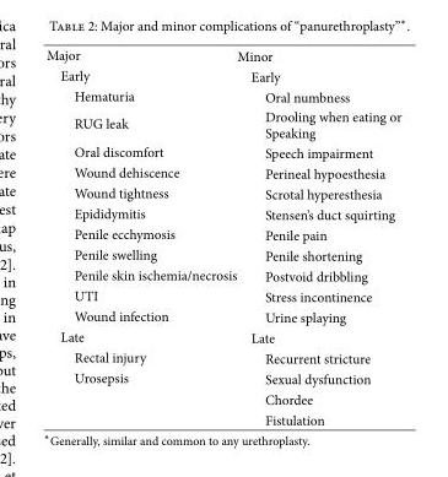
<table><tbody><tr><td>Major</td><td>Minor</td></tr><tr><td>Early</td><td>Early</td></tr><tr><td>Hematuria</td><td>Oral numbness</td></tr><tr><td>RUG leak</td><td>Drooling when eating or Speaking</td></tr><tr><td>Oral discomfort</td><td>Speech impairment</td></tr><tr><td>Wound dehiscence</td><td>Perineal hypoesthesia</td></tr><tr><td>Wound tightness</td><td>Scrotal hyperesthesia</td></tr><tr><td>Epididymitis</td><td>Stensen’s duct squirting</td></tr><tr><td>Penile ecchymosis</td><td>Penile pain</td></tr><tr><td>Penile swelling</td><td>Penile shortening</td></tr><tr><td>Penile skin ischemia/necrosis</td><td>Postvoid dribbling</td></tr><tr><td>UTI</td><td>Stress incontinence</td></tr><tr><td>Wound infection</td><td>Urine splaying</td></tr><tr><td>Late</td><td>Late</td></tr><tr><td>Rectal injury</td><td>Recurrent stricture</td></tr><tr><td rowspan="3">Urosepsis</td><td>Sexual dysfunction</td></tr><tr><td>Chordee</td></tr><tr><td>Fistulation</td></tr></tbody></table>